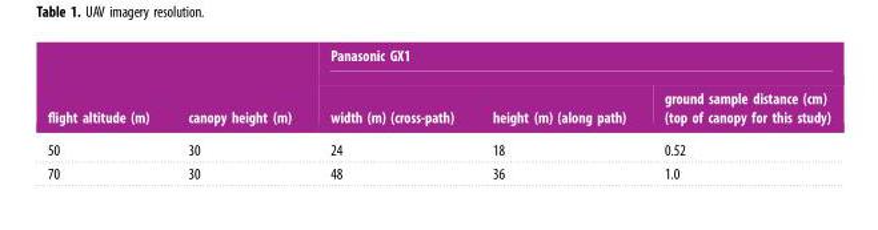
<table><thead><tr><td rowspan="2">flight altitude (m)</td><td rowspan="2">canopy height (m)</td><td colspan="3">Panasonic GX1</td></tr><tr><td>width (m) (cross-path)</td><td>height (m) (along path)</td><td>ground sample distance (cm) (top of canopy for this study)</td></tr></thead><tbody><tr><td>50</td><td>30</td><td>24</td><td>18</td><td>0.52</td></tr><tr><td>70</td><td>30</td><td>48</td><td>36</td><td>1.0</td></tr></tbody></table>